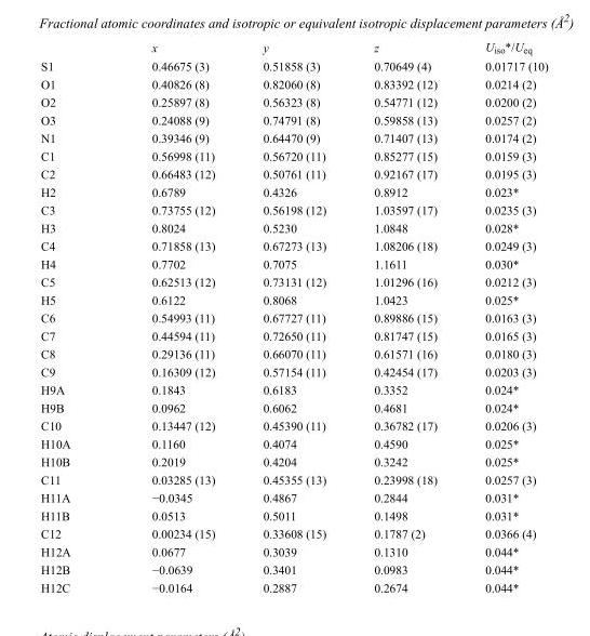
<table><thead><tr><td></td><td>x</td><td>y</td><td>z</td><td>U<sub>iso</sub>*/U<sub>eq</sub></td></tr></thead><tbody><tr><td>S1</td><td>0.46675 (3)</td><td>0.51858 (3)</td><td>0.70649 (4)</td><td>0.01717 (10)</td></tr><tr><td>O1</td><td>0.40826 (8)</td><td>0.82060 (8)</td><td>0.83392 (12)</td><td>0.0214 (2)</td></tr><tr><td>O2</td><td>0.25897 (8)</td><td>0.56323 (8)</td><td>0.54771 (12)</td><td>0.0200 (2)</td></tr><tr><td>O3</td><td>0.24088 (9)</td><td>0.74791 (8)</td><td>0.59858 (13)</td><td>0.0257 (2)</td></tr><tr><td>N1</td><td>0.39346 (9)</td><td>0.64470 (9)</td><td>0.71407 (13)</td><td>0.0174 (2)</td></tr><tr><td>C1</td><td>0.56998 (11)</td><td>0.56720 (11)</td><td>0.85277 (15)</td><td>0.0159 (3)</td></tr><tr><td>C2</td><td>0.66483 (12)</td><td>0.50761 (11)</td><td>0.92167 (17)</td><td>0.0195 (3)</td></tr><tr><td>H2</td><td>0.6789</td><td>0.4326</td><td>0.8912</td><td>0.023*</td></tr><tr><td>C3</td><td>0.73755 (12)</td><td>0.56198 (12)</td><td>1.03597 (17)</td><td>0.0235 (3)</td></tr><tr><td>H3</td><td>0.8024</td><td>0.5230</td><td>1.0848</td><td>0.028*</td></tr><tr><td>C4</td><td>0.71858 (13)</td><td>0.67273 (13)</td><td>1.08206 (18)</td><td>0.0249 (3)</td></tr><tr><td>H4</td><td>0.7702</td><td>0.7075</td><td>1.1611</td><td>0.030*</td></tr><tr><td>C5</td><td>0.62513 (12)</td><td>0.73131 (12)</td><td>1.01296 (16)</td><td>0.0212 (3)</td></tr><tr><td>H5</td><td>0.6122</td><td>0.8068</td><td>1.0423</td><td>0.025*</td></tr><tr><td>C6</td><td>0.54993 (11)</td><td>0.67727 (11)</td><td>0.89886 (15)</td><td>0.0163 (3)</td></tr><tr><td>C7</td><td>0.44594 (11)</td><td>0.72650 (11)</td><td>0.81747 (15)</td><td>0.0165 (3)</td></tr><tr><td>C8</td><td>0.29136 (11)</td><td>0.66070 (11)</td><td>0.61571 (16)</td><td>0.0180 (3)</td></tr><tr><td>C9</td><td>0.16309 (12)</td><td>0.57154 (11)</td><td>0.42454 (17)</td><td>0.0203 (3)</td></tr><tr><td>H9A</td><td>0.1843</td><td>0.6183</td><td>0.3352</td><td>0.024*</td></tr><tr><td>H9B</td><td>0.0962</td><td>0.6062</td><td>0.4681</td><td>0.024*</td></tr><tr><td>C10</td><td>0.13447 (12)</td><td>0.45390 (11)</td><td>0.36782 (17)</td><td>0.0206 (3)</td></tr><tr><td>H10A</td><td>0.1160</td><td>0.4074</td><td>0.4590</td><td>0.025*</td></tr><tr><td>H10B</td><td>0.2019</td><td>0.4204</td><td>0.3242</td><td>0.025*</td></tr><tr><td>C11</td><td>0.03285 (13)</td><td>0.45355 (13)</td><td>0.23998 (18)</td><td>0.0257 (3)</td></tr><tr><td>H11A</td><td>−0.0345</td><td>0.4867</td><td>0.2844</td><td>0.031*</td></tr><tr><td>H11B</td><td>0.0513</td><td>0.5011</td><td>0.1498</td><td>0.031*</td></tr><tr><td>C12</td><td>0.00234 (15)</td><td>0.33608 (15)</td><td>0.1787 (2)</td><td>0.0366 (4)</td></tr><tr><td>H12A</td><td>0.0677</td><td>0.3039</td><td>0.1310</td><td>0.044*</td></tr><tr><td>H12B</td><td>−0.0639</td><td>0.3401</td><td>0.0983</td><td>0.044*</td></tr><tr><td>H12C</td><td>−0.0164</td><td>0.2887</td><td>0.2674</td><td>0.044*</td></tr></tbody></table>